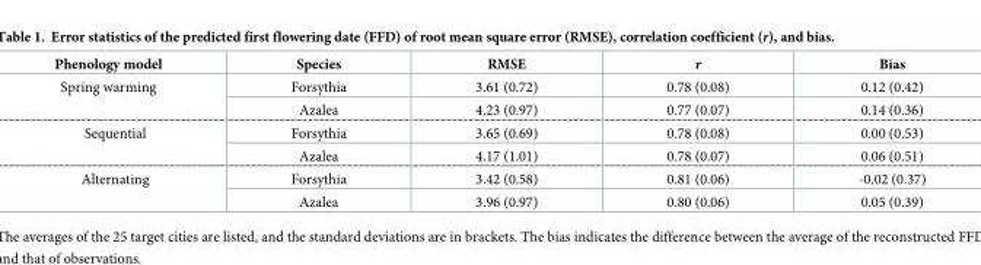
<table><thead><tr><td>Phenology model</td><td>Species</td><td>RMSE</td><td>r</td><td>Bias</td></tr></thead><tbody><tr><td rowspan="2">Spring warming</td><td>Forsythia</td><td>3.61 (0.72)</td><td>0.78 (0.08)</td><td>0.12 (0.42)</td></tr><tr><td>Azalea</td><td>4.23 (0.97)</td><td>0.77 (0.07)</td><td>0.14 (0.36)</td></tr><tr><td rowspan="2">Sequential</td><td>Forsythia</td><td>3.65 (0.69)</td><td>0.78 (0.08)</td><td>0.00 (0.53)</td></tr><tr><td>Azalea</td><td>4.17 (1.01)</td><td>0.78 (0.07)</td><td>0.06 (0.51)</td></tr><tr><td rowspan="2">Alternating</td><td>Forsythia</td><td>3.42 (0.58)</td><td>0.81 (0.06)</td><td>-0.02 (0.37)</td></tr><tr><td>Azalea</td><td>3.96 (0.97)</td><td>0.80 (0.06)</td><td>0.05 (0.39)</td></tr></tbody></table>